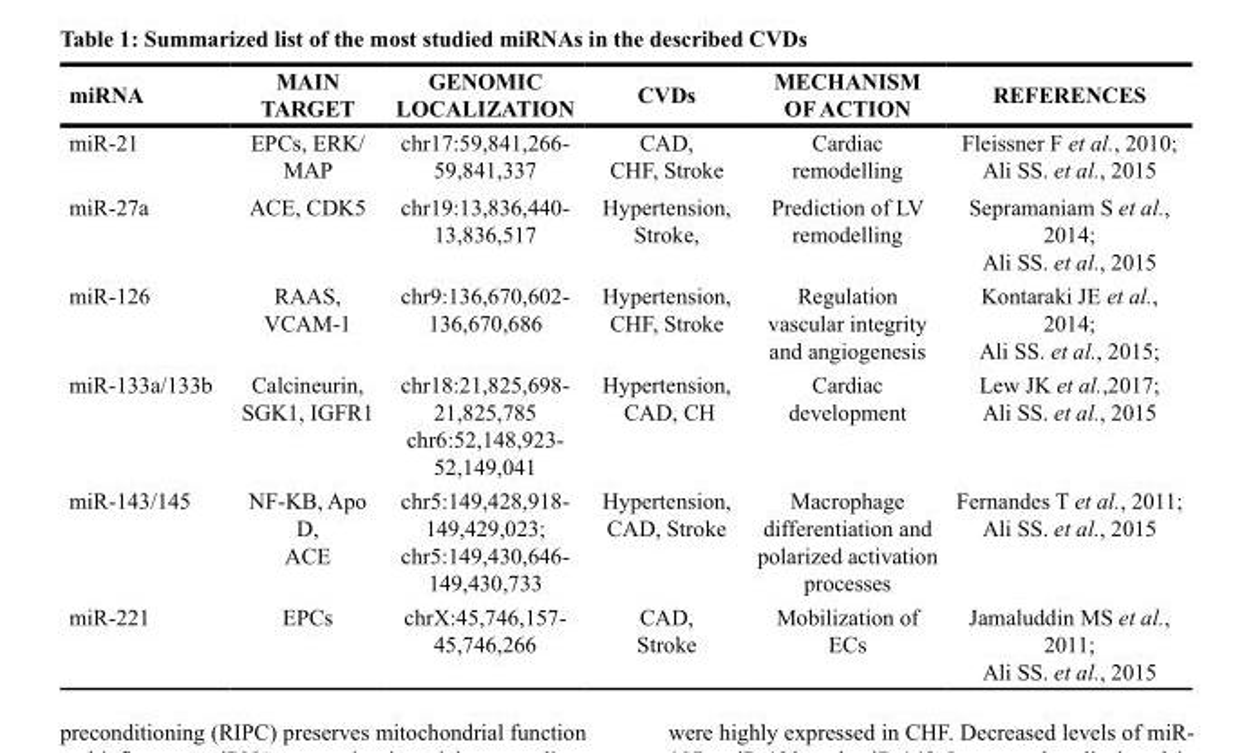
<table><thead><tr><td>miRNA</td><td>MAIN TARGET</td><td>GENOMIC LOCALIZATION</td><td>CVDs</td><td>MECHANISM OF ACTION</td><td>REFERENCES</td></tr></thead><tbody><tr><td>miR-21</td><td>EPCs, ERK/ MAP</td><td>chr17:59,841,266- 59,841,337</td><td>CAD, CHF, Stroke</td><td>Cardiac remodelling</td><td>Fleissner F et al., 2010; Ali SS. et al., 2015</td></tr><tr><td>miR-27a</td><td>ACE, CDK5</td><td>chr19:13,836,440- 13,836,517</td><td>Hypertension, Stroke,</td><td>Prediction of LV remodelling</td><td>Sepramaniam S et al., 2014; Ali SS. et al., 2015</td></tr><tr><td>miR-126</td><td>RAAS, VCAM-1</td><td>chr9:136,670,602- 136,670,686</td><td>Hypertension, CHF, Stroke</td><td>Regulation vascular integrity and angiogenesis</td><td>Kontaraki JE et al., 2014; Ali SS. et al., 2015;</td></tr><tr><td>miR-133a/133b</td><td>Calcineurin, SGK1, IGFR1</td><td>chr18:21,825,698- 21,825,785 chr6:52,148,923- 52,149,041</td><td>Hypertension, CAD, CH</td><td>Cardiac development</td><td>Lew JK et al.,2017; Ali SS. et al., 2015</td></tr><tr><td>miR-143/145</td><td>NF-KB, Apo D, ACE</td><td>chr5:149,428,918- 149,429,023; chr5:149,430,646- 149,430,733</td><td>Hypertension, CAD, Stroke</td><td>Macrophage differentiation and polarized activation processes</td><td>Fernandes T et al., 2011; Ali SS. et al., 2015</td></tr><tr><td>miR-221</td><td>EPCs</td><td>chrX:45,746,157- 45,746,266</td><td>CAD, Stroke</td><td>Mobilization of ECs</td><td>Jamaluddin MS et al., 2011; Ali SS. et al., 2015</td></tr></tbody></table>